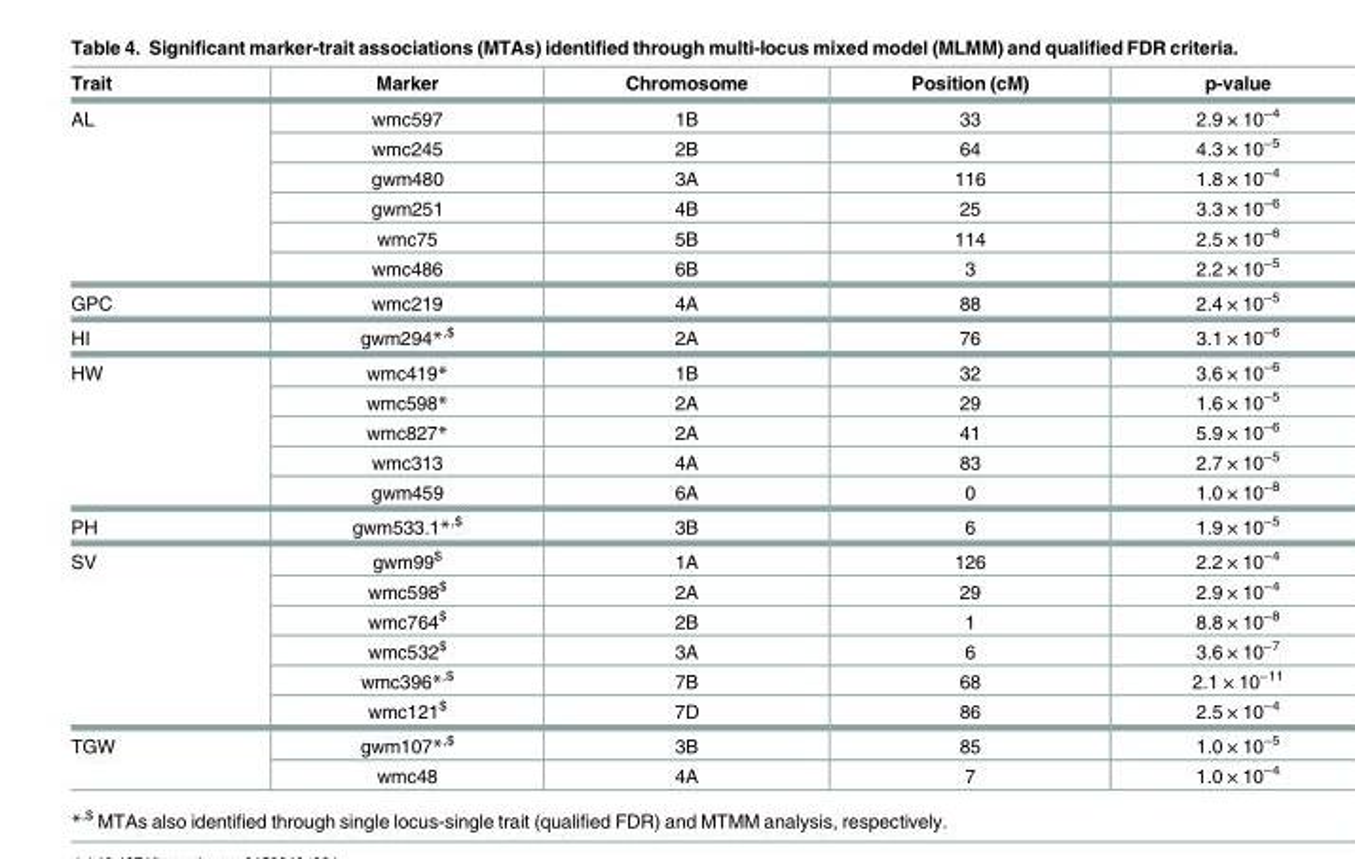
<table><thead><tr><td>Trait</td><td>Marker</td><td>Chromosome</td><td>Position (cM)</td><td>p-value</td></tr></thead><tbody><tr><td rowspan="6">AL</td><td>wmc597</td><td>1B</td><td>33</td><td>2.9 × 10<sup>−4</sup></td></tr><tr><td>wmc245</td><td>2B</td><td>64</td><td>4.3 × 10<sup>−5</sup></td></tr><tr><td>gwm480</td><td>3A</td><td>116</td><td>1.8 × 10<sup>−4</sup></td></tr><tr><td>gwm251</td><td>4B</td><td>25</td><td>3.3 × 10<sup>−6</sup></td></tr><tr><td>wmc75</td><td>5B</td><td>114</td><td>2.5 × 10<sup>−6</sup></td></tr><tr><td>wmc486</td><td>6B</td><td>3</td><td>2.2 × 10<sup>−5</sup></td></tr><tr><td>GPC</td><td>wmc219</td><td>4A</td><td>88</td><td>2.4 × 10<sup>−5</sup></td></tr><tr><td>HI</td><td>gwm294*<sup>,$</sup></td><td>2A</td><td>76</td><td>3.1 × 10<sup>−6</sup></td></tr><tr><td rowspan="5">HW</td><td>wmc419*</td><td>1B</td><td>32</td><td>3.6 × 10<sup>−6</sup></td></tr><tr><td>wmc598*</td><td>2A</td><td>29</td><td>1.6 × 10<sup>−5</sup></td></tr><tr><td>wmc827*</td><td>2A</td><td>41</td><td>5.9 × 10<sup>−6</sup></td></tr><tr><td>wmc313</td><td>4A</td><td>83</td><td>2.7 × 10<sup>−5</sup></td></tr><tr><td>gwm459</td><td>6A</td><td>0</td><td>1.0 × 10<sup>−8</sup></td></tr><tr><td>PH</td><td>gwm533.1*<sup>,$</sup></td><td>3B</td><td>6</td><td>1.9 × 10<sup>−5</sup></td></tr><tr><td rowspan="6">SV</td><td>gwm99<sup>$</sup></td><td>1A</td><td>126</td><td>2.2 × 10<sup>−4</sup></td></tr><tr><td>wmc598<sup>$</sup></td><td>2A</td><td>29</td><td>2.9 × 10<sup>−4</sup></td></tr><tr><td>wmc764<sup>$</sup></td><td>2B</td><td>1</td><td>8.8 × 10<sup>−8</sup></td></tr><tr><td>wmc532<sup>$</sup></td><td>3A</td><td>6</td><td>3.6 × 10<sup>−7</sup></td></tr><tr><td>wmc396*<sup>,$</sup></td><td>7B</td><td>68</td><td>2.1 × 10<sup>−11</sup></td></tr><tr><td>wmc121<sup>$</sup></td><td>7D</td><td>86</td><td>2.5 × 10<sup>−4</sup></td></tr><tr><td rowspan="2">TGW</td><td>gwm107*<sup>,$</sup></td><td>3B</td><td>85</td><td>1.0 × 10<sup>−5</sup></td></tr><tr><td>wmc48</td><td>4A</td><td>7</td><td>1.0 × 10<sup>−4</sup></td></tr></tbody></table>